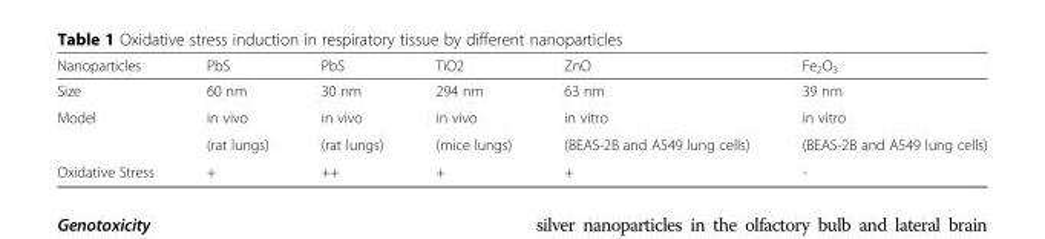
<table><thead><tr><td>Nanoparticles</td><td>PbS</td><td>PbS</td><td>TiO2</td><td>ZnO</td><td>Fe<sub>2</sub>O<sub>3</sub></td></tr></thead><tbody><tr><td>Size</td><td>60 nm</td><td>30 nm</td><td>294 nm</td><td>63 nm</td><td>39 nm</td></tr><tr><td rowspan="2">Model</td><td>in vivo</td><td>in vivo</td><td>in vivo</td><td>in vitro</td><td>in vitro</td></tr><tr><td>(rat lungs)</td><td>(rat lungs)</td><td>(mice lungs)</td><td>(BEAS-2B and A549 lung cells)</td><td>(BEAS-2B and A549 lung cells)</td></tr><tr><td>Oxidative Stress</td><td>+</td><td>++</td><td>+</td><td>+</td><td>-</td></tr></tbody></table>